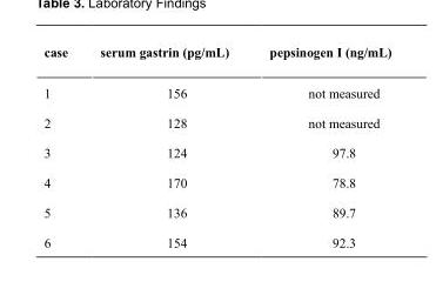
<table><thead><tr><td>case</td><td>serum gastrin (pg/mL)</td><td>pepsinogen I (ng/mL)</td></tr></thead><tbody><tr><td>1</td><td>156</td><td>not measured</td></tr><tr><td>2</td><td>128</td><td>not measured</td></tr><tr><td>3</td><td>124</td><td>97.8</td></tr><tr><td>4</td><td>170</td><td>78.8</td></tr><tr><td>5</td><td>136</td><td>89.7</td></tr><tr><td>6</td><td>154</td><td>92.3</td></tr></tbody></table>